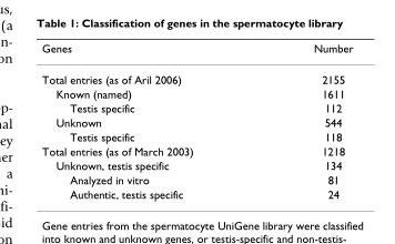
<table><thead><tr><td>Genes</td><td>Number</td></tr></thead><tbody><tr><td>Total entries (as of Aril 2006)</td><td>2155</td></tr><tr><td>Known (named)</td><td>1611</td></tr><tr><td>Testis specific</td><td>112</td></tr><tr><td>Unknown</td><td>544</td></tr><tr><td>Testis specific</td><td>118</td></tr><tr><td>Total entries (as of March 2003)</td><td>1218</td></tr><tr><td>Unknown, testis specific</td><td>134</td></tr><tr><td>Analyzed in vitro</td><td>81</td></tr><tr><td>Authentic, testis specific</td><td>24</td></tr></tbody></table>